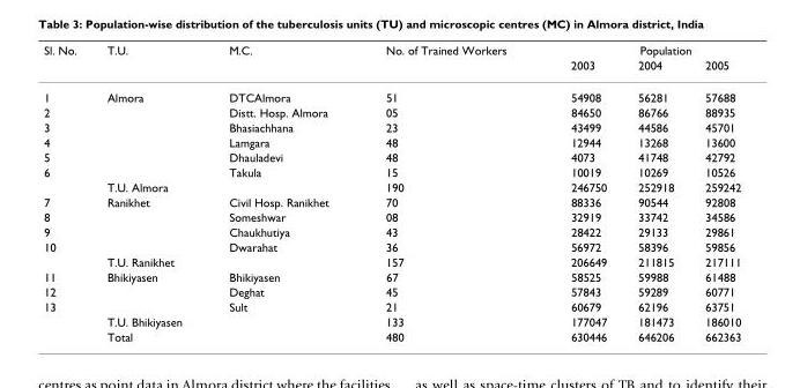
<table><thead><tr><td rowspan="2">Sl. No.</td><td rowspan="2">T.U.</td><td rowspan="2">M.C.</td><td rowspan="2">No. of Trained Workers</td><td colspan="3">Population</td></tr><tr><td>2003</td><td>2004</td><td>2005</td></tr></thead><tbody><tr><td>1</td><td>Almora</td><td>DTCAlmora</td><td>51</td><td>54908</td><td>56281</td><td>57688</td></tr><tr><td>2</td><td></td><td>Distt. Hosp. Almora</td><td>05</td><td>84650</td><td>86766</td><td>88935</td></tr><tr><td>3</td><td></td><td>Bhasiachhana</td><td>23</td><td>43499</td><td>44586</td><td>45701</td></tr><tr><td>4</td><td></td><td>Lamgara</td><td>48</td><td>12944</td><td>13268</td><td>13600</td></tr><tr><td>5</td><td></td><td>Dhauladevi</td><td>48</td><td>4073</td><td>41748</td><td>42792</td></tr><tr><td rowspan="2">6</td><td></td><td>Takula</td><td>15</td><td>10019</td><td>10269</td><td>10526</td></tr><tr><td>T.U. Almora</td><td></td><td>190</td><td>246750</td><td>252918</td><td>259242</td></tr><tr><td>7</td><td>Ranikhet</td><td>Civil Hosp. Ranikhet</td><td>70</td><td>88336</td><td>90544</td><td>92808</td></tr><tr><td>8</td><td></td><td>Someshwar</td><td>08</td><td>32919</td><td>33742</td><td>34586</td></tr><tr><td>9</td><td></td><td>Chaukhutiya</td><td>43</td><td>28422</td><td>29133</td><td>29861</td></tr><tr><td rowspan="2">10</td><td></td><td>Dwarahat</td><td>36</td><td>56972</td><td>58396</td><td>59856</td></tr><tr><td>T.U. Ranikhet</td><td></td><td>157</td><td>206649</td><td>211815</td><td>217111</td></tr><tr><td>11</td><td>Bhikiyasen</td><td>Bhikiyasen</td><td>67</td><td>58525</td><td>59988</td><td>61488</td></tr><tr><td>12</td><td></td><td>Deghat</td><td>45</td><td>57843</td><td>59289</td><td>60771</td></tr><tr><td rowspan="3">13</td><td></td><td>Sult</td><td>21</td><td>60679</td><td>62196</td><td>63751</td></tr><tr><td>T.U. Bhikiyasen</td><td></td><td>133</td><td>177047</td><td>181473</td><td>186010</td></tr><tr><td>Total</td><td></td><td>480</td><td>630446</td><td>646206</td><td>662363</td></tr></tbody></table>